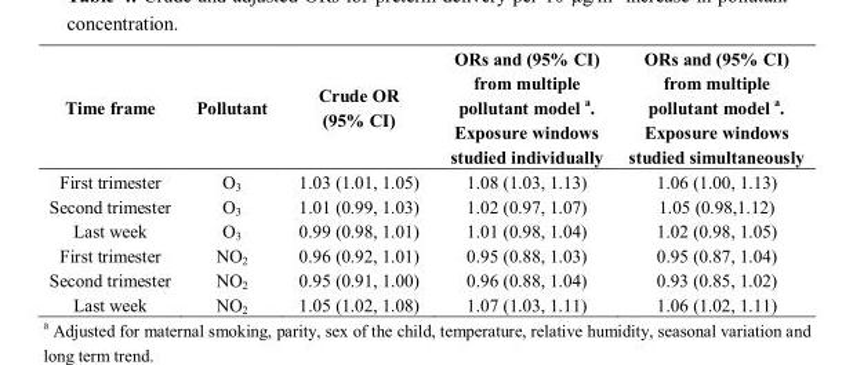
<table><thead><tr><td>Time frame</td><td>Pollutant</td><td>Crude OR (95% CI)</td><td>ORs and (95% CI) from multiple pollutant model <sup>a</sup>. Exposure windows studied individually</td><td>ORs and (95% CI) from multiple pollutant model <sup>a</sup>. Exposure windows studied simultaneously</td></tr></thead><tbody><tr><td>First trimester</td><td>O<sub>3</sub></td><td>1.03 (1.01, 1.05)</td><td>1.08 (1.03, 1.13)</td><td>1.06 (1.00, 1.13)</td></tr><tr><td>Second trimester</td><td>O<sub>3</sub></td><td>1.01 (0.99, 1.03)</td><td>1.02 (0.97, 1.07)</td><td>1.05 (0.98,1.12)</td></tr><tr><td>Last week</td><td>O<sub>3</sub></td><td>0.99 (0.98, 1.01)</td><td>1.01 (0.98, 1.04)</td><td>1.02 (0.98, 1.05)</td></tr><tr><td>First trimester</td><td>NO<sub>2</sub></td><td>0.96 (0.92, 1.01)</td><td>0.95 (0.88, 1.03)</td><td>0.95 (0.87, 1.04)</td></tr><tr><td>Second trimester</td><td>NO<sub>2</sub></td><td>0.95 (0.91, 1.00)</td><td>0.96 (0.88, 1.04)</td><td>0.93 (0.85, 1.02)</td></tr><tr><td>Last week</td><td>NO<sub>2</sub></td><td>1.05 (1.02, 1.08)</td><td>1.07 (1.03, 1.11)</td><td>1.06 (1.02, 1.11)</td></tr></tbody></table>